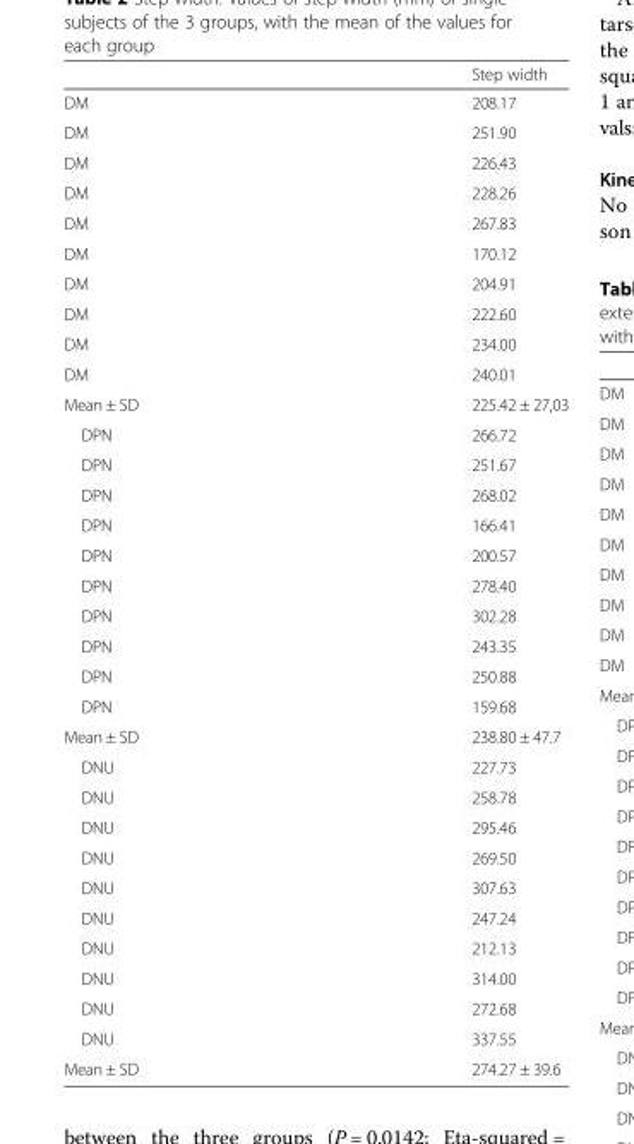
<table><thead><tr><td></td><td>Step width</td></tr></thead><tbody><tr><td>DM</td><td>208.17</td></tr><tr><td>DM</td><td>251.90</td></tr><tr><td>DM</td><td>226.43</td></tr><tr><td>DM</td><td>228.26</td></tr><tr><td>DM</td><td>267.83</td></tr><tr><td>DM</td><td>170.12</td></tr><tr><td>DM</td><td>204.91</td></tr><tr><td>DM</td><td>222.60</td></tr><tr><td>DM</td><td>234.00</td></tr><tr><td>DM</td><td>240.01</td></tr><tr><td>Mean ± SD</td><td>225.42 ± 27,03</td></tr><tr><td>DPN</td><td>266.72</td></tr><tr><td>DPN</td><td>251.67</td></tr><tr><td>DPN</td><td>268.02</td></tr><tr><td>DPN</td><td>166.41</td></tr><tr><td>DPN</td><td>200.57</td></tr><tr><td>DPN</td><td>278.40</td></tr><tr><td>DPN</td><td>302.28</td></tr><tr><td>DPN</td><td>243.35</td></tr><tr><td>DPN</td><td>250.88</td></tr><tr><td>DPN</td><td>159.68</td></tr><tr><td>Mean ± SD</td><td>238.80 ± 47.7</td></tr><tr><td>DNU</td><td>227.73</td></tr><tr><td>DNU</td><td>258.78</td></tr><tr><td>DNU</td><td>295.46</td></tr><tr><td>DNU</td><td>269.50</td></tr><tr><td>DNU</td><td>307.63</td></tr><tr><td>DNU</td><td>247.24</td></tr><tr><td>DNU</td><td>212.13</td></tr><tr><td>DNU</td><td>314.00</td></tr><tr><td>DNU</td><td>272.68</td></tr><tr><td>DNU</td><td>337.55</td></tr><tr><td>Mean ± SD</td><td>274.27 ± 39.6</td></tr></tbody></table>